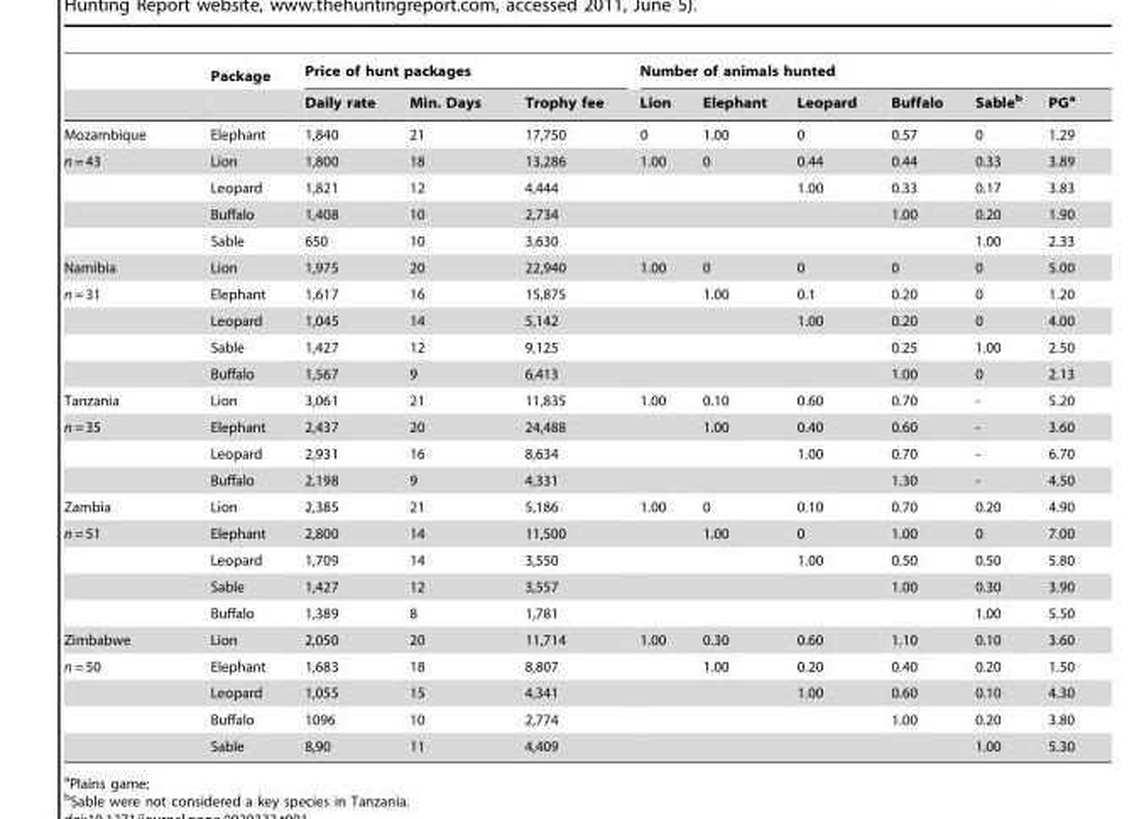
<table><thead><tr><td rowspan="2"></td><td rowspan="2">Package</td><td colspan="3">Price of hunt packages</td><td colspan="6">Number of animals hunted</td></tr><tr><td>Daily rate</td><td>Min. Days</td><td>Trophy fee</td><td>Lion</td><td>Elephant</td><td>Leopard</td><td>Buffalo</td><td>Sable<sup>b</sup></td><td>PG<sup>a</sup></td></tr></thead><tbody><tr><td>Mozambique</td><td>Elephant</td><td>1,840</td><td>21</td><td>17,750</td><td>0</td><td>1.00</td><td>0</td><td>0.57</td><td>0</td><td>1.29</td></tr><tr><td rowspan="4">n = 43</td><td>Lion</td><td>1,800</td><td>18</td><td>13,286</td><td>1.00</td><td>0</td><td>0.44</td><td>0.44</td><td>0.33</td><td>3.89</td></tr><tr><td>Leopard</td><td>1,821</td><td>12</td><td>4,444</td><td></td><td></td><td>1.00</td><td>0.33</td><td>0.17</td><td>3.83</td></tr><tr><td>Buffalo</td><td>1,408</td><td>10</td><td>2,734</td><td></td><td></td><td></td><td>1.00</td><td>0.20</td><td>1.90</td></tr><tr><td>Sable</td><td>650</td><td>10</td><td>3,630</td><td></td><td></td><td></td><td></td><td>1.00</td><td>2.33</td></tr><tr><td>Namibia</td><td>Lion</td><td>1,975</td><td>20</td><td>22,940</td><td>1.00</td><td>0</td><td>0</td><td>0</td><td>0</td><td>5.00</td></tr><tr><td rowspan="4">n = 31</td><td>Elephant</td><td>1,617</td><td>16</td><td>15,875</td><td></td><td>1.00</td><td>0.1</td><td>0.20</td><td>0</td><td>1.20</td></tr><tr><td>Leopard</td><td>1,045</td><td>14</td><td>5,142</td><td></td><td></td><td>1.00</td><td>0.20</td><td>0</td><td>4.00</td></tr><tr><td>Sable</td><td>1,427</td><td>12</td><td>9,125</td><td></td><td></td><td></td><td>0.25</td><td>1.00</td><td>2.50</td></tr><tr><td>Buffalo</td><td>1,567</td><td>9</td><td>6,413</td><td></td><td></td><td></td><td>1.00</td><td>0</td><td>2.13</td></tr><tr><td>Tanzania</td><td>Lion</td><td>3,061</td><td>21</td><td>11,835</td><td>1.00</td><td>0.10</td><td>0.60</td><td>0.70</td><td>-</td><td>5.20</td></tr><tr><td rowspan="3">n = 35</td><td>Elephant</td><td>2,437</td><td>20</td><td>24,488</td><td></td><td>1.00</td><td>0.40</td><td>0.60</td><td>-</td><td>3.60</td></tr><tr><td>Leopard</td><td>2,931</td><td>16</td><td>8,634</td><td></td><td></td><td>1.00</td><td>0.70</td><td>-</td><td>6.70</td></tr><tr><td>Buffalo</td><td>2,198</td><td>9</td><td>4,331</td><td></td><td></td><td></td><td>1.30</td><td>-</td><td>4.50</td></tr><tr><td>Zambia</td><td>Lion</td><td>2,385</td><td>21</td><td>5,186</td><td>1.00</td><td>0</td><td>0.10</td><td>0.70</td><td>0.20</td><td>4.90</td></tr><tr><td rowspan="4">n = 51</td><td>Elephant</td><td>2,800</td><td>14</td><td>11,500</td><td></td><td>1.00</td><td>0</td><td>1.00</td><td>0</td><td>7.00</td></tr><tr><td>Leopard</td><td>1,709</td><td>14</td><td>3,550</td><td></td><td></td><td>1.00</td><td>0.50</td><td>0.50</td><td>5.80</td></tr><tr><td>Sable</td><td>1,427</td><td>12</td><td>3,557</td><td></td><td></td><td></td><td>1.00</td><td>0.30</td><td>3.90</td></tr><tr><td>Buffalo</td><td>1,389</td><td>8</td><td>1,781</td><td></td><td></td><td></td><td></td><td>1.00</td><td>5.50</td></tr><tr><td>Zimbabwe</td><td>Lion</td><td>2,050</td><td>20</td><td>11,714</td><td>1.00</td><td>0.30</td><td>0.60</td><td>1.10</td><td>0.10</td><td>3.60</td></tr><tr><td rowspan="4">n = 50</td><td>Elephant</td><td>1,683</td><td>18</td><td>8,807</td><td></td><td>1.00</td><td>0.20</td><td>0.40</td><td>0.20</td><td>1.50</td></tr><tr><td>Leopard</td><td>1,055</td><td>15</td><td>4,341</td><td></td><td></td><td>1.00</td><td>0.60</td><td>0.10</td><td>4.30</td></tr><tr><td>Buffalo</td><td>1096</td><td>10</td><td>2,774</td><td></td><td></td><td></td><td>1.00</td><td>0.20</td><td>3.80</td></tr><tr><td>Sable</td><td>8,90</td><td>11</td><td>4,409</td><td></td><td></td><td></td><td></td><td>1.00</td><td>5.30</td></tr></tbody></table>